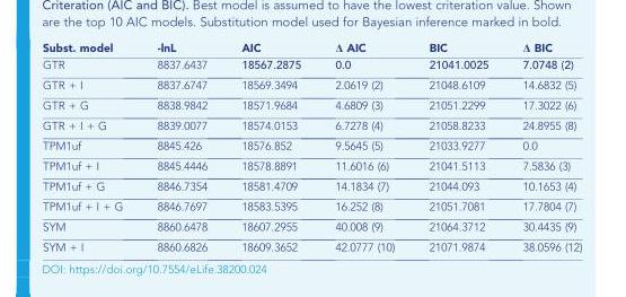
<table><thead><tr><td>Subst. model</td><td>-lnL</td><td>AIC</td><td>Δ AIC</td><td>BIC</td><td>Δ BIC</td></tr></thead><tbody><tr><td>GTR</td><td>8837.6437</td><td>18567.2875</td><td>0.0</td><td>21041.0025</td><td>7.0748 (2)</td></tr><tr><td>GTR + I</td><td>8837.6747</td><td>18569.3494</td><td>2.0619 (2)</td><td>21048.6109</td><td>14.6832 (5)</td></tr><tr><td>GTR + G</td><td>8838.9842</td><td>18571.9684</td><td>4.6809 (3)</td><td>21051.2299</td><td>17.3022 (6)</td></tr><tr><td>GTR + I + G</td><td>8839.0077</td><td>18574.0153</td><td>6.7278 (4)</td><td>21058.8233</td><td>24.8955 (8)</td></tr><tr><td>TPM1uf</td><td>8845.426</td><td>18576.852</td><td>9.5645 (5)</td><td>21033.9277</td><td>0.0</td></tr><tr><td>TPM1uf + I</td><td>8845.4446</td><td>18578.8891</td><td>11.6016 (6)</td><td>21041.5113</td><td>7.5836 (3)</td></tr><tr><td>TPM1uf + G</td><td>8846.7354</td><td>18581.4709</td><td>14.1834 (7)</td><td>21044.093</td><td>10.1653 (4)</td></tr><tr><td>TPM1uf + I + G</td><td>8846.7697</td><td>18583.5395</td><td>16.252 (8)</td><td>21051.7081</td><td>17.7804 (7)</td></tr><tr><td>SYM</td><td>8860.6478</td><td>18607.2955</td><td>40.008 (9)</td><td>21064.3712</td><td>30.4435 (9)</td></tr><tr><td>SYM + I</td><td>8860.6826</td><td>18609.3652</td><td>42.0777 (10)</td><td>21071.9874</td><td>38.0596 (12)</td></tr></tbody></table>